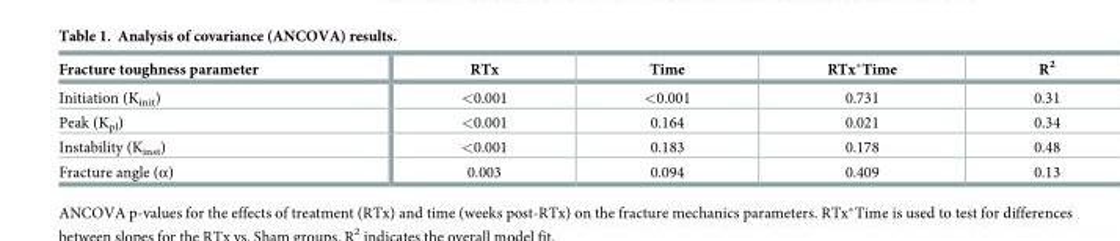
<table><thead><tr><td>Fracture toughness parameter</td><td>RTx</td><td>Time</td><td>RTx*Time</td><td>R<sup>2</sup></td></tr></thead><tbody><tr><td>Initiation (K<sub>init</sub>)</td><td>&lt;0.001</td><td>&lt;0.001</td><td>0.731</td><td>0.31</td></tr><tr><td>Peak (K<sub>pl</sub>)</td><td>&lt;0.001</td><td>0.164</td><td>0.021</td><td>0.34</td></tr><tr><td>Instability (K<sub>inst</sub>)</td><td>&lt;0.001</td><td>0.183</td><td>0.178</td><td>0.48</td></tr><tr><td>Fracture angle (α)</td><td>0.003</td><td>0.094</td><td>0.409</td><td>0.13</td></tr></tbody></table>